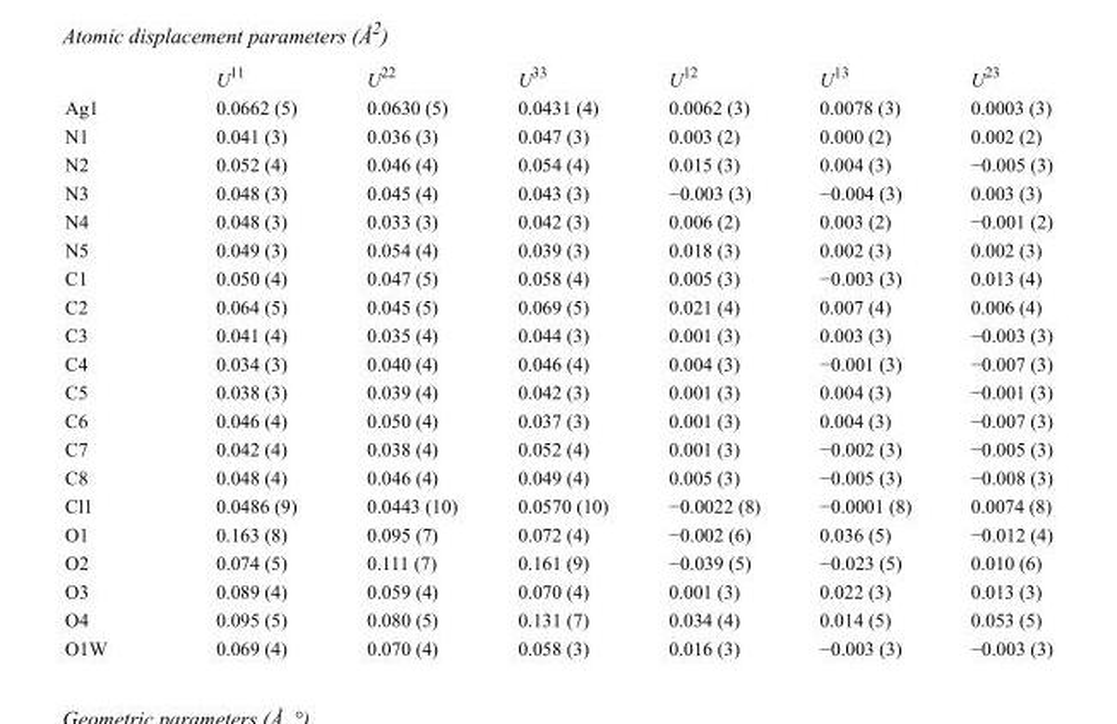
<table><thead><tr><td></td><td>U<sup>11</sup></td><td>U<sup>22</sup></td><td>U<sup>33</sup></td><td>U<sup>12</sup></td><td>U<sup>13</sup></td><td>U<sup>23</sup></td></tr></thead><tbody><tr><td>Ag1</td><td>0.0662 (5)</td><td>0.0630 (5)</td><td>0.0431 (4)</td><td>0.0062 (3)</td><td>0.0078 (3)</td><td>0.0003 (3)</td></tr><tr><td>N1</td><td>0.041 (3)</td><td>0.036 (3)</td><td>0.047 (3)</td><td>0.003 (2)</td><td>0.000 (2)</td><td>0.002 (2)</td></tr><tr><td>N2</td><td>0.052 (4)</td><td>0.046 (4)</td><td>0.054 (4)</td><td>0.015 (3)</td><td>0.004 (3)</td><td>−0.005 (3)</td></tr><tr><td>N3</td><td>0.048 (3)</td><td>0.045 (4)</td><td>0.043 (3)</td><td>−0.003 (3)</td><td>−0.004 (3)</td><td>0.003 (3)</td></tr><tr><td>N4</td><td>0.048 (3)</td><td>0.033 (3)</td><td>0.042 (3)</td><td>0.006 (2)</td><td>0.003 (2)</td><td>−0.001 (2)</td></tr><tr><td>N5</td><td>0.049 (3)</td><td>0.054 (4)</td><td>0.039 (3)</td><td>0.018 (3)</td><td>0.002 (3)</td><td>0.002 (3)</td></tr><tr><td>C1</td><td>0.050 (4)</td><td>0.047 (5)</td><td>0.058 (4)</td><td>0.005 (3)</td><td>−0.003 (3)</td><td>0.013 (4)</td></tr><tr><td>C2</td><td>0.064 (5)</td><td>0.045 (5)</td><td>0.069 (5)</td><td>0.021 (4)</td><td>0.007 (4)</td><td>0.006 (4)</td></tr><tr><td>C3</td><td>0.041 (4)</td><td>0.035 (4)</td><td>0.044 (3)</td><td>0.001 (3)</td><td>0.003 (3)</td><td>−0.003 (3)</td></tr><tr><td>C4</td><td>0.034 (3)</td><td>0.040 (4)</td><td>0.046 (4)</td><td>0.004 (3)</td><td>−0.001 (3)</td><td>−0.007 (3)</td></tr><tr><td>C5</td><td>0.038 (3)</td><td>0.039 (4)</td><td>0.042 (3)</td><td>0.001 (3)</td><td>0.004 (3)</td><td>−0.001 (3)</td></tr><tr><td>C6</td><td>0.046 (4)</td><td>0.050 (4)</td><td>0.037 (3)</td><td>0.001 (3)</td><td>0.004 (3)</td><td>−0.007 (3)</td></tr><tr><td>C7</td><td>0.042 (4)</td><td>0.038 (4)</td><td>0.052 (4)</td><td>0.001 (3)</td><td>−0.002 (3)</td><td>−0.005 (3)</td></tr><tr><td>C8</td><td>0.048 (4)</td><td>0.046 (4)</td><td>0.049 (4)</td><td>0.005 (3)</td><td>−0.005 (3)</td><td>−0.008 (3)</td></tr><tr><td>Cl1</td><td>0.0486 (9)</td><td>0.0443 (10)</td><td>0.0570 (10)</td><td>−0.0022 (8)</td><td>−0.0001 (8)</td><td>0.0074 (8)</td></tr><tr><td>O1</td><td>0.163 (8)</td><td>0.095 (7)</td><td>0.072 (4)</td><td>−0.002 (6)</td><td>0.036 (5)</td><td>−0.012 (4)</td></tr><tr><td>O2</td><td>0.074 (5)</td><td>0.111 (7)</td><td>0.161 (9)</td><td>−0.039 (5)</td><td>−0.023 (5)</td><td>0.010 (6)</td></tr><tr><td>O3</td><td>0.089 (4)</td><td>0.059 (4)</td><td>0.070 (4)</td><td>0.001 (3)</td><td>0.022 (3)</td><td>0.013 (3)</td></tr><tr><td>O4</td><td>0.095 (5)</td><td>0.080 (5)</td><td>0.131 (7)</td><td>0.034 (4)</td><td>0.014 (5)</td><td>0.053 (5)</td></tr><tr><td>O1W</td><td>0.069 (4)</td><td>0.070 (4)</td><td>0.058 (3)</td><td>0.016 (3)</td><td>−0.003 (3)</td><td>−0.003 (3)</td></tr></tbody></table>